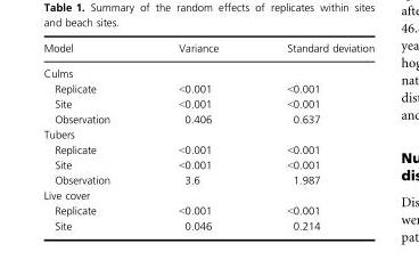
<table><thead><tr><td>Model</td><td>Variance</td><td>Standard deviation</td></tr></thead><tbody><tr><td colspan="3">Culms</td></tr><tr><td>Replicate</td><td>&lt;0.001</td><td>&lt;0.001</td></tr><tr><td>Site</td><td>&lt;0.001</td><td>&lt;0.001</td></tr><tr><td>Observation</td><td>0.406</td><td>0.637</td></tr><tr><td colspan="3">Tubers</td></tr><tr><td>Replicate</td><td>&lt;0.001</td><td>&lt;0.001</td></tr><tr><td>Site</td><td>&lt;0.001</td><td>&lt;0.001</td></tr><tr><td>Observation</td><td>3.6</td><td>1.987</td></tr><tr><td colspan="3">Live cover</td></tr><tr><td>Replicate</td><td>&lt;0.001</td><td>&lt;0.001</td></tr><tr><td>Site</td><td>0.046</td><td>0.214</td></tr></tbody></table>